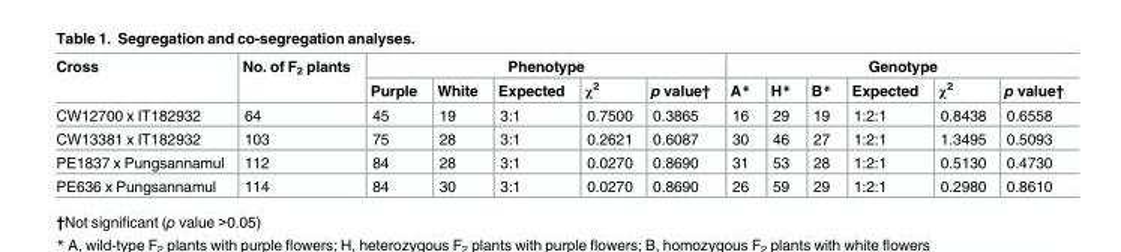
<table><thead><tr><td rowspan="2">Cross</td><td rowspan="2">No. of F<sub>2</sub> plants</td><td colspan="5">Phenotype</td><td colspan="6">Genotype</td></tr><tr><td>Purple</td><td>White</td><td>Expected</td><td>χ<sup>2</sup></td><td>p value†</td><td>A*</td><td>H*</td><td>B*</td><td>Expected</td><td>χ<sup>2</sup></td><td>p value†</td></tr></thead><tbody><tr><td>CW12700 x IT182932</td><td>64</td><td>45</td><td>19</td><td>3:1</td><td>0.7500</td><td>0.3865</td><td>16</td><td>29</td><td>19</td><td>1:2:1</td><td>0.8438</td><td>0.6558</td></tr><tr><td>CW13381 x IT182932</td><td>103</td><td>75</td><td>28</td><td>3:1</td><td>0.2621</td><td>0.6087</td><td>30</td><td>46</td><td>27</td><td>1:2:1</td><td>1.3495</td><td>0.5093</td></tr><tr><td>PE1837 x Pungsannamul</td><td>112</td><td>84</td><td>28</td><td>3:1</td><td>0.0270</td><td>0.8690</td><td>31</td><td>53</td><td>28</td><td>1:2:1</td><td>0.5130</td><td>0.4730</td></tr><tr><td>PE636 x Pungsannamul</td><td>114</td><td>84</td><td>30</td><td>3:1</td><td>0.0270</td><td>0.8690</td><td>26</td><td>59</td><td>29</td><td>1:2:1</td><td>0.2980</td><td>0.8610</td></tr></tbody></table>